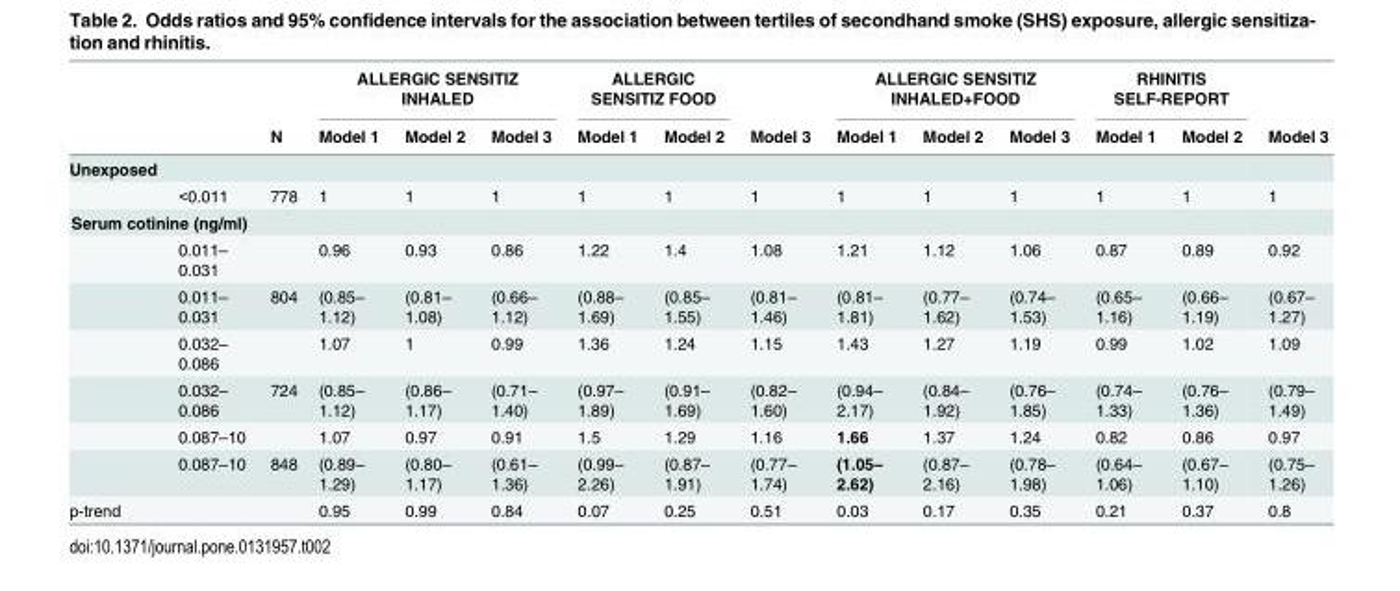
<table><thead><tr><td rowspan="2"></td><td rowspan="2"></td><td rowspan="2">N</td><td colspan="3">ALLERGIC SENSITIZ INHALED</td><td colspan="2">ALLERGIC SENSITIZ FOOD</td><td rowspan="2">Model 3</td><td colspan="3">ALLERGIC SENSITIZ INHALED+FOOD</td><td colspan="2">RHINITIS SELF-REPORT</td><td rowspan="2">Model 3</td></tr><tr><td>Model 1</td><td>Model 2</td><td>Model 3</td><td>Model 1</td><td>Model 2</td><td>Model 1</td><td>Model 2</td><td>Model 3</td><td>Model 1</td><td>Model 2</td></tr></thead><tbody><tr><td colspan="15">Unexposed</td></tr><tr><td></td><td>&lt;0.011</td><td>778</td><td>1</td><td>1</td><td>1</td><td>1</td><td>1</td><td>1</td><td>1</td><td>1</td><td>1</td><td>1</td><td>1</td><td>1</td></tr><tr><td colspan="15">Serum cotinine (ng/ml)</td></tr><tr><td></td><td>0.011– 0.031</td><td></td><td>0.96</td><td>0.93</td><td>0.86</td><td>1.22</td><td>1.4</td><td>1.08</td><td>1.21</td><td>1.12</td><td>1.06</td><td>0.87</td><td>0.89</td><td>0.92</td></tr><tr><td></td><td>0.011– 0.031</td><td>804</td><td>(0.85– 1.12)</td><td>(0.81– 1.08)</td><td>(0.66– 1.12)</td><td>(0.88– 1.69)</td><td>(0.85– 1.55)</td><td>(0.81– 1.46)</td><td>(0.81– 1.81)</td><td>(0.77– 1.62)</td><td>(0.74– 1.53)</td><td>(0.65– 1.16)</td><td>(0.66– 1.19)</td><td>(0.67– 1.27)</td></tr><tr><td></td><td>0.032– 0.086</td><td></td><td>1.07</td><td>1</td><td>0.99</td><td>1.36</td><td>1.24</td><td>1.15</td><td>1.43</td><td>1.27</td><td>1.19</td><td>0.99</td><td>1.02</td><td>1.09</td></tr><tr><td></td><td>0.032– 0.086</td><td>724</td><td>(0.85– 1.12)</td><td>(0.86– 1.17)</td><td>(0.71– 1.40)</td><td>(0.97– 1.89)</td><td>(0.91– 1.69)</td><td>(0.82– 1.60)</td><td>(0.94– 2.17)</td><td>(0.84– 1.92)</td><td>(0.76– 1.85)</td><td>(0.74– 1.33)</td><td>(0.76– 1.36)</td><td>(0.79– 1.49)</td></tr><tr><td></td><td>0.087–10</td><td></td><td>1.07</td><td>0.97</td><td>0.91</td><td>1.5</td><td>1.29</td><td>1.16</td><td>1.66</td><td>1.37</td><td>1.24</td><td>0.82</td><td>0.86</td><td>0.97</td></tr><tr><td></td><td>0.087–10</td><td>848</td><td>(0.89– 1.29)</td><td>(0.80– 1.17)</td><td>(0.61– 1.36)</td><td>(0.99– 2.26)</td><td>(0.87– 1.91)</td><td>(0.77– 1.74)</td><td>(1.05– 2.62)</td><td>(0.87– 2.16)</td><td>(0.78– 1.98)</td><td>(0.64– 1.06)</td><td>(0.67– 1.10)</td><td>(0.75– 1.26)</td></tr><tr><td>p-trend</td><td></td><td></td><td>0.95</td><td>0.99</td><td>0.84</td><td>0.07</td><td>0.25</td><td>0.51</td><td>0.03</td><td>0.17</td><td>0.35</td><td>0.21</td><td>0.37</td><td>0.8</td></tr></tbody></table>